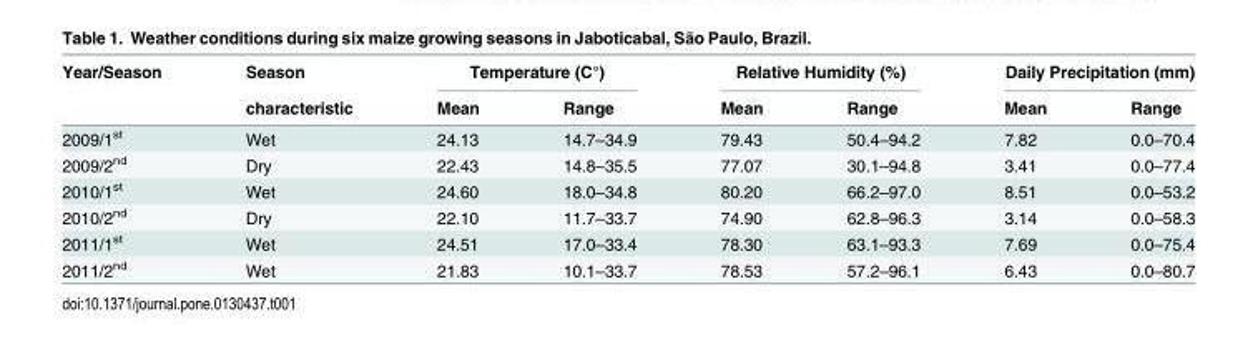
<table><thead><tr><td rowspan="2">Year/Season</td><td rowspan="2">Season characteristic</td><td colspan="2">Temperature (C°)</td><td colspan="2">Relative Humidity (%)</td><td colspan="2">Daily Precipitation (mm)</td></tr><tr><td>Mean</td><td>Range</td><td>Mean</td><td>Range</td><td>Mean</td><td>Range</td></tr></thead><tbody><tr><td>2009/1<sup>st</sup></td><td>Wet</td><td>24.13</td><td>14.7–34.9</td><td>79.43</td><td>50.4–94.2</td><td>7.82</td><td>0.0–70.4</td></tr><tr><td>2009/2<sup>nd</sup></td><td>Dry</td><td>22.43</td><td>14.8–35.5</td><td>77.07</td><td>30.1–94.8</td><td>3.41</td><td>0.0–77.4</td></tr><tr><td>2010/1<sup>st</sup></td><td>Wet</td><td>24.60</td><td>18.0–34.8</td><td>80.20</td><td>66.2–97.0</td><td>8.51</td><td>0.0–53.2</td></tr><tr><td>2010/2<sup>nd</sup></td><td>Dry</td><td>22.10</td><td>11.7–33.7</td><td>74.90</td><td>62.8–96.3</td><td>3.14</td><td>0.0–58.3</td></tr><tr><td>2011/1<sup>st</sup></td><td>Wet</td><td>24.51</td><td>17.0–33.4</td><td>78.30</td><td>63.1–93.3</td><td>7.69</td><td>0.0–75.4</td></tr><tr><td>2011/2<sup>nd</sup></td><td>Wet</td><td>21.83</td><td>10.1–33.7</td><td>78.53</td><td>57.2–96.1</td><td>6.43</td><td>0.0–80.7</td></tr></tbody></table>